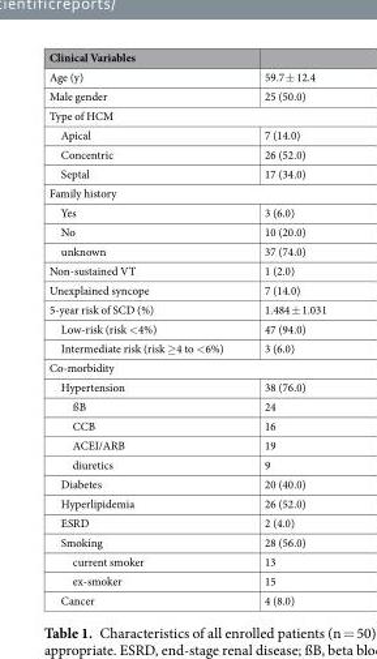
<table><thead><tr><td>Clinical Variables</td><td></td></tr></thead><tbody><tr><td>Age (y)</td><td>59.7 ± 12.4</td></tr><tr><td>Male gender</td><td>25 (50.0)</td></tr><tr><td colspan="2">Type of HCM</td></tr><tr><td>Apical</td><td>7 (14.0)</td></tr><tr><td>Concentric</td><td>26 (52.0)</td></tr><tr><td>Septal</td><td>17 (34.0)</td></tr><tr><td colspan="2">Family history</td></tr><tr><td>Yes</td><td>3 (6.0)</td></tr><tr><td>No</td><td>10 (20.0)</td></tr><tr><td>unknown</td><td>37 (74.0)</td></tr><tr><td>Non-sustained VT</td><td>1 (2.0)</td></tr><tr><td>Unexplained syncope</td><td>7 (14.0)</td></tr><tr><td>5-year risk of SCD (%)</td><td>1.484 ± 1.031</td></tr><tr><td>Low-risk (risk &lt;4%)</td><td>47 (94.0)</td></tr><tr><td>Intermediate risk (risk ≥4 to &lt;6%)</td><td>3 (6.0)</td></tr><tr><td colspan="2">Co-morbidity</td></tr><tr><td>Hypertension</td><td>38 (76.0)</td></tr><tr><td>ßB</td><td>24</td></tr><tr><td>CCB</td><td>16</td></tr><tr><td>ACEI/ARB</td><td>19</td></tr><tr><td>diuretics</td><td>9</td></tr><tr><td>Diabetes</td><td>20 (40.0)</td></tr><tr><td>Hyperlipidemia</td><td>26 (52.0)</td></tr><tr><td>ESRD</td><td>2 (4.0)</td></tr><tr><td>Smoking</td><td>28 (56.0)</td></tr><tr><td>current smoker</td><td>13</td></tr><tr><td>ex-smoker</td><td>15</td></tr><tr><td>Cancer</td><td>4 (8.0)</td></tr></tbody></table>